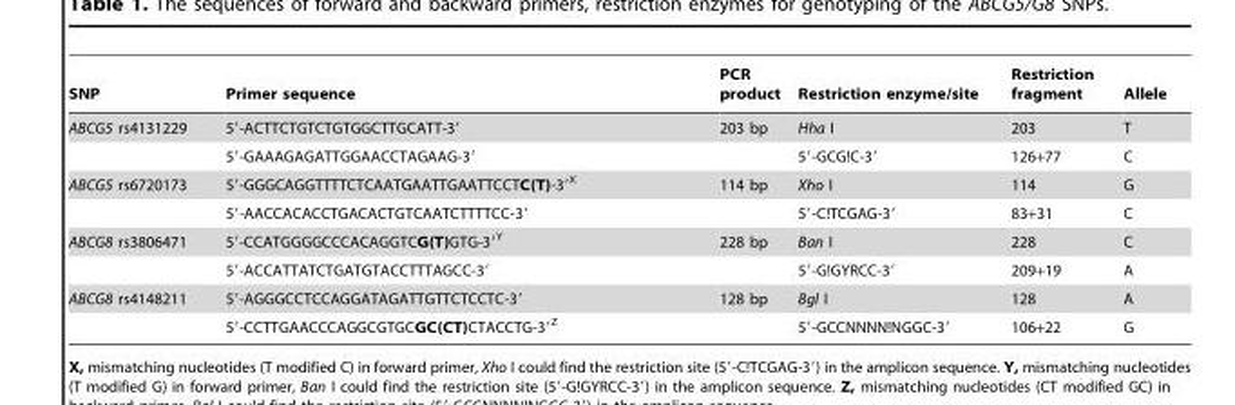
<table><thead><tr><td>SNP</td><td>Primer sequence</td><td>PCR product</td><td>Restriction enzyme/site</td><td>Restriction fragment</td><td>Allele</td></tr></thead><tbody><tr><td rowspan="2">ABCG5 rs4131229</td><td>5′-ACTTCTGTCTGTGGCTTGCATT-3′</td><td>203 bp</td><td>Hha I</td><td>203</td><td>T</td></tr><tr><td>5′-GAAAGAGATTGGAACCTAGAAG-3′</td><td></td><td>5′-GCG!C-3′</td><td>126+77</td><td>C</td></tr><tr><td rowspan="2">ABCG5 rs6720173</td><td>5′-GGGCAGGTTTTCTCAATGAATTGAATTCCTC(T)-3′<sup>X</sup></td><td>114 bp</td><td>Xho I</td><td>114</td><td>G</td></tr><tr><td>5′-AACCACACCTGACACTGTCAATCTTTTCC-3′</td><td></td><td>5′-C!TCGAG-3′</td><td>83+31</td><td>C</td></tr><tr><td rowspan="2">ABCG8 rs3806471</td><td>5′-CCATGGGGCCCACAGGTCG(T)GTG-3′<sup>Y</sup></td><td>228 bp</td><td>Ban I</td><td>228</td><td>C</td></tr><tr><td>5′-ACCATTATCTGATGTACCTTTAGCC-3′</td><td></td><td>5′-G!GYRCC-3′</td><td>209+19</td><td>A</td></tr><tr><td rowspan="2">ABCG8 rs4148211</td><td>5′-AGGGCCTCCAGGATAGATTGTTCTCCTC-3′</td><td>128 bp</td><td>Bgl I</td><td>128</td><td>A</td></tr><tr><td>5′-CCTTGAACCCAGGCGTGCGC(CT)CTACCTG-3′<sup>Z</sup></td><td></td><td>5′-GCCNNNN!NGGC-3′</td><td>106+22</td><td>G</td></tr></tbody></table>